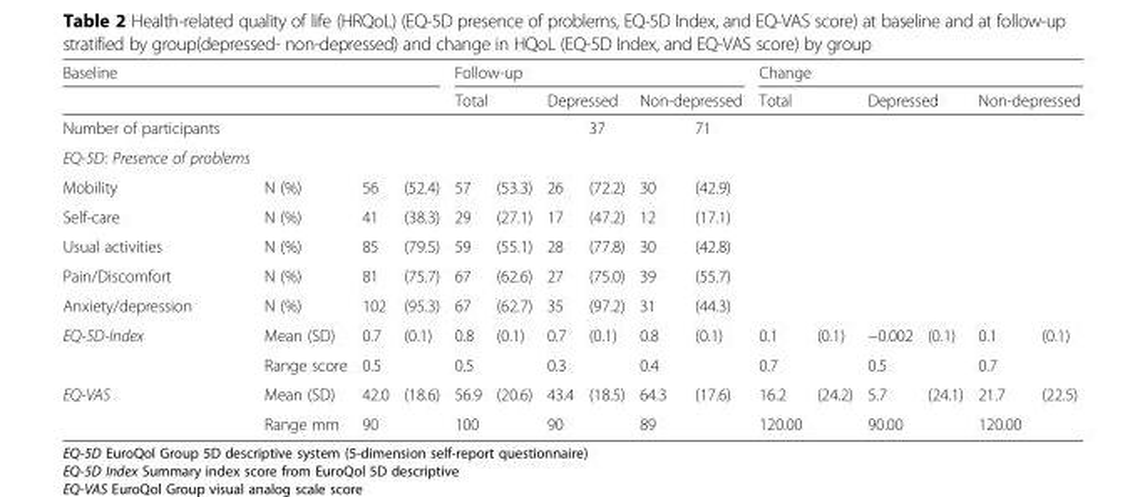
<table><thead><tr><td colspan="4">Baseline</td><td colspan="6">Follow-up</td><td colspan="6">Change</td></tr><tr><td></td><td></td><td rowspan="3"></td><td rowspan="3"></td><td colspan="2">Total</td><td colspan="2">Depressed</td><td colspan="2">Non-depressed</td><td rowspan="2" colspan="2">Total</td><td colspan="2">Depressed</td><td colspan="2">Non-depressed</td></tr><tr><td colspan="2">Number of participants</td><td rowspan="2"></td><td colspan="2"></td><td rowspan="2">37</td><td rowspan="2"></td><td rowspan="2">71</td><td rowspan="2"></td><td colspan="3"></td></tr><tr><td>EQ-5D: Presence of problems</td><td></td><td></td><td></td><td></td><td></td><td></td><td></td><td></td></tr></thead><tbody><tr><td>Mobility</td><td>N (%)</td><td>56</td><td>(52.4)</td><td>57</td><td>(53.3)</td><td>26</td><td>(72.2)</td><td>30</td><td>(42.9)</td><td></td><td></td><td></td><td></td><td></td><td></td></tr><tr><td>Self-care</td><td>N (%)</td><td>41</td><td>(38.3)</td><td>29</td><td>(27.1)</td><td>17</td><td>(47.2)</td><td>12</td><td>(17.1)</td><td></td><td></td><td></td><td></td><td></td><td></td></tr><tr><td>Usual activities</td><td>N (%)</td><td>85</td><td>(79.5)</td><td>59</td><td>(55.1)</td><td>28</td><td>(77.8)</td><td>30</td><td>(42.8)</td><td></td><td></td><td></td><td></td><td></td><td></td></tr><tr><td>Pain/Discomfort</td><td>N (%)</td><td>81</td><td>(75.7)</td><td>67</td><td>(62.6)</td><td>27</td><td>(75.0)</td><td>39</td><td>(55.7)</td><td></td><td></td><td></td><td></td><td></td><td></td></tr><tr><td>Anxiety/depression</td><td>N (%)</td><td>102</td><td>(95.3)</td><td>67</td><td>(62.7)</td><td>35</td><td>(97.2)</td><td>31</td><td>(44.3)</td><td></td><td></td><td></td><td></td><td></td><td></td></tr><tr><td rowspan="2">EQ-5D-Index</td><td>Mean (SD)</td><td>0.7</td><td>(0.1)</td><td>0.8</td><td>(0.1)</td><td>0.7</td><td>(0.1)</td><td>0.8</td><td>(0.1)</td><td>0.1</td><td>(0.1)</td><td>−0.002</td><td>(0.1)</td><td>0.1</td><td>(0.1)</td></tr><tr><td>Range score</td><td>0.5</td><td></td><td>0.5</td><td></td><td>0.3</td><td></td><td>0.4</td><td></td><td>0.7</td><td></td><td>0.5</td><td></td><td>0.7</td><td></td></tr><tr><td rowspan="2">EQ-VAS</td><td>Mean (SD)</td><td>42.0</td><td>(18.6)</td><td>56.9</td><td>(20.6)</td><td>43.4</td><td>(18.5)</td><td>64.3</td><td>(17.6)</td><td>16.2</td><td>(24.2)</td><td>5.7</td><td>(24.1)</td><td>21.7</td><td>(22.5)</td></tr><tr><td>Range mm</td><td>90</td><td></td><td>100</td><td></td><td>90</td><td></td><td>89</td><td></td><td>120.00</td><td></td><td>90.00</td><td></td><td>120.00</td><td></td></tr></tbody></table>